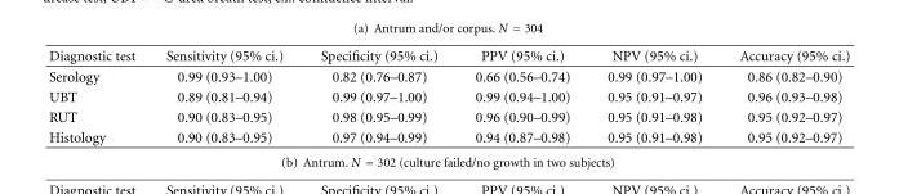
<table><thead><tr><td>Diagnostic test</td><td>Sensitivity (95% ci.)</td><td>Specificity (95% ci.)</td><td>PPV (95% ci.)</td><td>NPV (95% ci.)</td><td>Accuracy (95% ci.)</td></tr></thead><tbody><tr><td>Serology</td><td>0.99 (0.93–1.00)</td><td>0.82 (0.76–0.87)</td><td>0.66 (0.56–0.74)</td><td>0.99 (0.97–1.00)</td><td>0.86 (0.82–0.90)</td></tr><tr><td>UBT</td><td>0.89 (0.81–0.94)</td><td>0.99 (0.97–1.00)</td><td>0.99 (0.94–1.00)</td><td>0.95 (0.91–0.97)</td><td>0.96 (0.93–0.98)</td></tr><tr><td>RUT</td><td>0.90 (0.83–0.95)</td><td>0.98 (0.95–0.99)</td><td>0.96 (0.90–0.99)</td><td>0.95 (0.91–0.98)</td><td>0.95 (0.92–0.97)</td></tr><tr><td>Histology</td><td>0.90 (0.83–0.95)</td><td>0.97 (0.94–0.99)</td><td>0.94 (0.87–0.98)</td><td>0.95 (0.91–0.98)</td><td>0.95 (0.92–0.97)</td></tr></tbody></table>